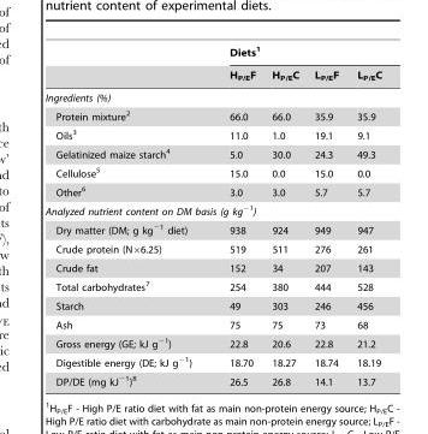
<table><thead><tr><td rowspan="2"></td><td colspan="4">Diets<sup>1</sup></td></tr><tr><td>H<sub>P/E</sub>F</td><td>H<sub>P/E</sub>C</td><td>L<sub>P/E</sub>F</td><td>L<sub>P/E</sub>C</td></tr></thead><tbody><tr><td colspan="5">Ingredients (%)</td></tr><tr><td>Protein mixture<sup>2</sup></td><td>66.0</td><td>66.0</td><td>35.9</td><td>35.9</td></tr><tr><td>Oils<sup>3</sup></td><td>11.0</td><td>1.0</td><td>19.1</td><td>9.1</td></tr><tr><td>Gelatinized maize starch<sup>4</sup></td><td>5.0</td><td>30.0</td><td>24.3</td><td>49.3</td></tr><tr><td>Cellulose<sup>5</sup></td><td>15.0</td><td>0.0</td><td>15.0</td><td>0.0</td></tr><tr><td>Other<sup>6</sup></td><td>3.0</td><td>3.0</td><td>5.7</td><td>5.7</td></tr><tr><td colspan="5">Analyzed nutrient content on DM basis (g kg<sup>−1</sup>)</td></tr><tr><td>Dry matter (DM; g kg<sup>−1</sup> diet)</td><td>938</td><td>924</td><td>949</td><td>947</td></tr><tr><td>Crude protein (N×6.25)</td><td>519</td><td>511</td><td>276</td><td>261</td></tr><tr><td>Crude fat</td><td>152</td><td>34</td><td>207</td><td>143</td></tr><tr><td>Total carbohydrates<sup>7</sup></td><td>254</td><td>380</td><td>444</td><td>528</td></tr><tr><td>Starch</td><td>49</td><td>303</td><td>246</td><td>456</td></tr><tr><td>Ash</td><td>75</td><td>75</td><td>73</td><td>68</td></tr><tr><td>Gross energy (GE; kJ g<sup>−1</sup>)</td><td>22.8</td><td>20.6</td><td>22.8</td><td>21.2</td></tr><tr><td>Digestible energy (DE; kJ g<sup>−1</sup>)</td><td>18.70</td><td>18.27</td><td>18.74</td><td>18.19</td></tr><tr><td>DP/DE (mg kJ<sup>−1</sup>)<sup>8</sup></td><td>26.5</td><td>26.8</td><td>14.1</td><td>13.7</td></tr></tbody></table>